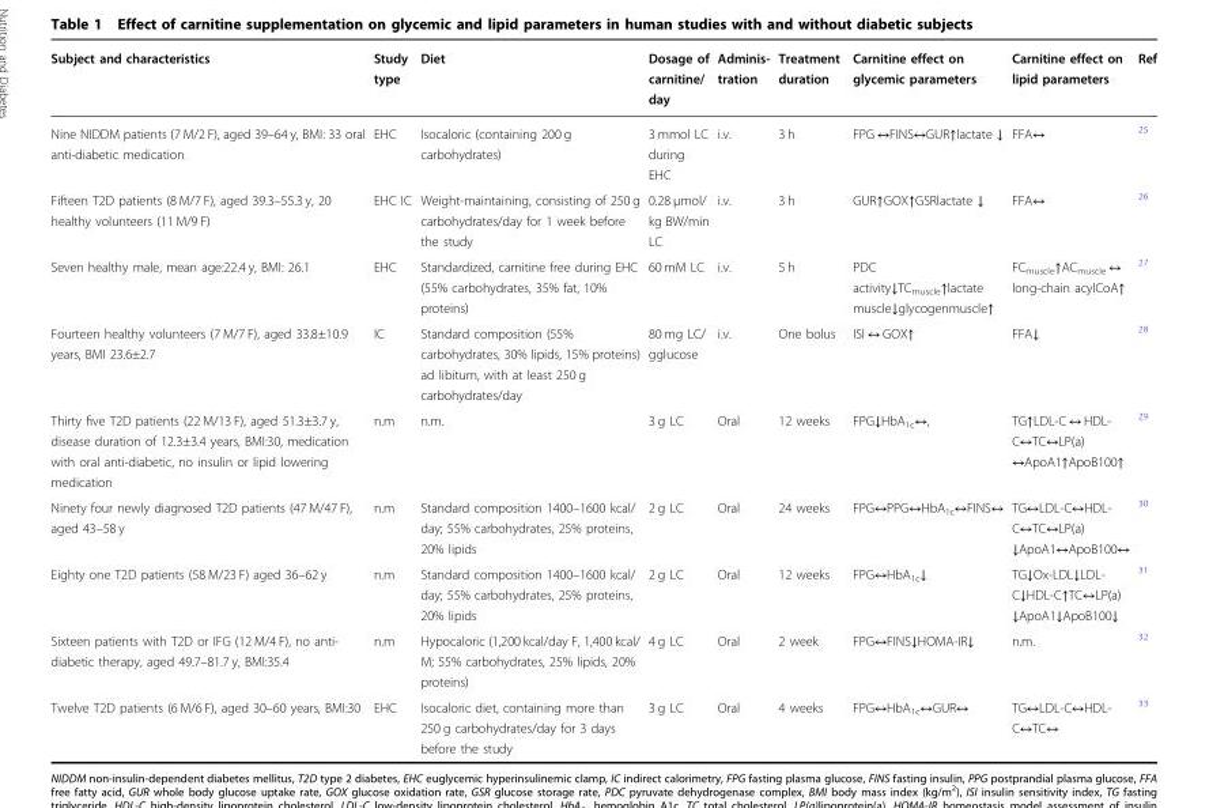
<table><thead><tr><td>Subject and characteristics</td><td>Study type</td><td>Diet</td><td>Dosage of carnitine/ day</td><td>Adminis- tration</td><td>Treatment duration</td><td>Carnitine effect on glycemic parameters</td><td>Carnitine effect on lipid parameters</td><td>Ref</td></tr></thead><tbody><tr><td>Nine NIDDM patients (7 M/2 F), aged 39–64 y, BMI: 33 oral anti-diabetic medication</td><td>EHC</td><td>Isocaloric (containing 200 g carbohydrates)</td><td>3 mmol LC during EHC</td><td>i.v.</td><td>3 h</td><td>FPG ↔FINS↔GUR↑lactate ↓</td><td>FFA↔</td><td><sup>25</sup></td></tr><tr><td>Fifteen T2D patients (8 M/7 F), aged 39.3–55.3 y, 20 healthy volunteers (11 M/9 F)</td><td>EHC IC</td><td>Weight-maintaining, consisting of 250 g carbohydrates/day for 1 week before the study</td><td>0.28 µmol/ kg BW/min LC</td><td>i.v.</td><td>3 h</td><td>GUR↑GOX↑GSRlactate ↓</td><td>FFA↔</td><td><sup>26</sup></td></tr><tr><td>Seven healthy male, mean age:22.4 y, BMI: 26.1</td><td>EHC</td><td>Standardized, carnitine free during EHC (55% carbohydrates, 35% fat, 10% proteins)</td><td>60 mM LC</td><td>i.v.</td><td>5 h</td><td>PDC activity↓TC<sub>muscle</sub>↑lactate muscle↓glycogenmuscle↑</td><td>FC<sub>muscle</sub>↑AC<sub>muscle</sub> ↔ long-chain acylCoA↑</td><td><sup>27</sup></td></tr><tr><td>Fourteen healthy volunteers (7 M/7 F), aged 33.8±10.9 years, BMI 23.6±2.7</td><td>IC</td><td>Standard composition (55% carbohydrates, 30% lipids, 15% proteins) ad libitum, with at least 250 g carbohydrates/day</td><td>80 mg LC/ gglucose</td><td>i.v.</td><td>One bolus</td><td>ISI ↔ GOX↑</td><td>FFA↓</td><td><sup>28</sup></td></tr><tr><td>Thirty five T2D patients (22 M/13 F), aged 51.3±3.7 y, disease duration of 12.3±3.4 years, BMI:30, medication with oral anti-diabetic, no insulin or lipid lowering medication</td><td>n.m</td><td>n.m.</td><td>3 g LC</td><td>Oral</td><td>12 weeks</td><td>FPG↓HbA<sub>1c</sub>↔,</td><td>TG↑LDL-C ↔ HDL- C↔TC↔LP(a) ↔ApoA1↑ApoB100↑</td><td><sup>29</sup></td></tr><tr><td>Ninety four newly diagnosed T2D patients (47 M/47 F), aged 43–58 y</td><td>n.m</td><td>Standard composition 1400–1600 kcal/ day; 55% carbohydrates, 25% proteins, 20% lipids</td><td>2 g LC</td><td>Oral</td><td>24 weeks</td><td>FPG↔PPG↔HbA<sub>1c</sub>↔FINS↔</td><td>TG↔LDL-C↔HDL- C↔TC↔LP(a) ↓ApoA1↔ApoB100↔</td><td><sup>30</sup></td></tr><tr><td>Eighty one T2D patients (58 M/23 F) aged 36–62 y</td><td>n.m</td><td>Standard composition 1400–1600 kcal/ day; 55% carbohydrates, 25% proteins, 20% lipids</td><td>2 g LC</td><td>Oral</td><td>12 weeks</td><td>FPG↔HbA<sub>1c</sub>↓</td><td>TG↓Ox-LDL↓LDL- C↓HDL-C↑TC↔LP(a) ↓ApoA1↓ApoB100↓</td><td><sup>31</sup></td></tr><tr><td>Sixteen patients with T2D or IFG (12 M/4 F), no anti- diabetic therapy, aged 49.7–81.7 y, BMI:35.4</td><td>n.m</td><td>Hypocaloric (1,200 kcal/day F, 1,400 kcal/ M; 55% carbohydrates, 25% lipids, 20% proteins)</td><td>4 g LC</td><td>Oral</td><td>2 week</td><td>FPG↔FINS↓HOMA-IR↓</td><td>n.m.</td><td><sup>32</sup></td></tr><tr><td>Twelve T2D patients (6 M/6 F), aged 30–60 years, BMI:30</td><td>EHC</td><td>Isocaloric diet, containing more than 250 g carbohydrates/day for 3 days before the study</td><td>3 g LC</td><td>Oral</td><td>4 weeks</td><td>FPG↔HbA<sub>1c</sub>↔GUR↔</td><td>TG↔LDL-C↔HDL- C↔TC↔</td><td><sup>33</sup></td></tr></tbody></table>